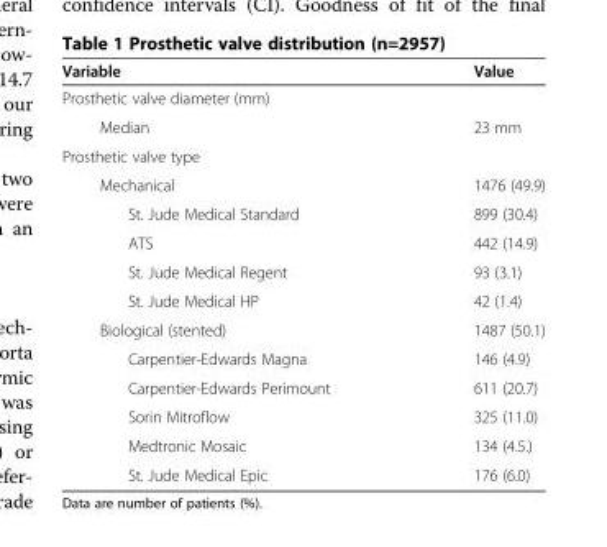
<table><thead><tr><td>Variable</td><td>Value</td></tr></thead><tbody><tr><td colspan="2">Prosthetic valve diameter (mm)</td></tr><tr><td>Median</td><td>23 mm</td></tr><tr><td colspan="2">Prosthetic valve type</td></tr><tr><td>Mechanical</td><td>1476 (49.9)</td></tr><tr><td>St. Jude Medical Standard</td><td>899 (30.4)</td></tr><tr><td>ATS</td><td>442 (14.9)</td></tr><tr><td>St. Jude Medical Regent</td><td>93 (3.1)</td></tr><tr><td>St. Jude Medical HP</td><td>42 (1.4)</td></tr><tr><td>Biological (stented)</td><td>1487 (50.1)</td></tr><tr><td>Carpentier-Edwards Magna</td><td>146 (4.9)</td></tr><tr><td>Carpentier-Edwards Perimount</td><td>611 (20.7)</td></tr><tr><td>Sorin Mitroflow</td><td>325 (11.0)</td></tr><tr><td>Medtronic Mosaic</td><td>134 (4.5.)</td></tr><tr><td>St. Jude Medical Epic</td><td>176 (6.0)</td></tr></tbody></table>